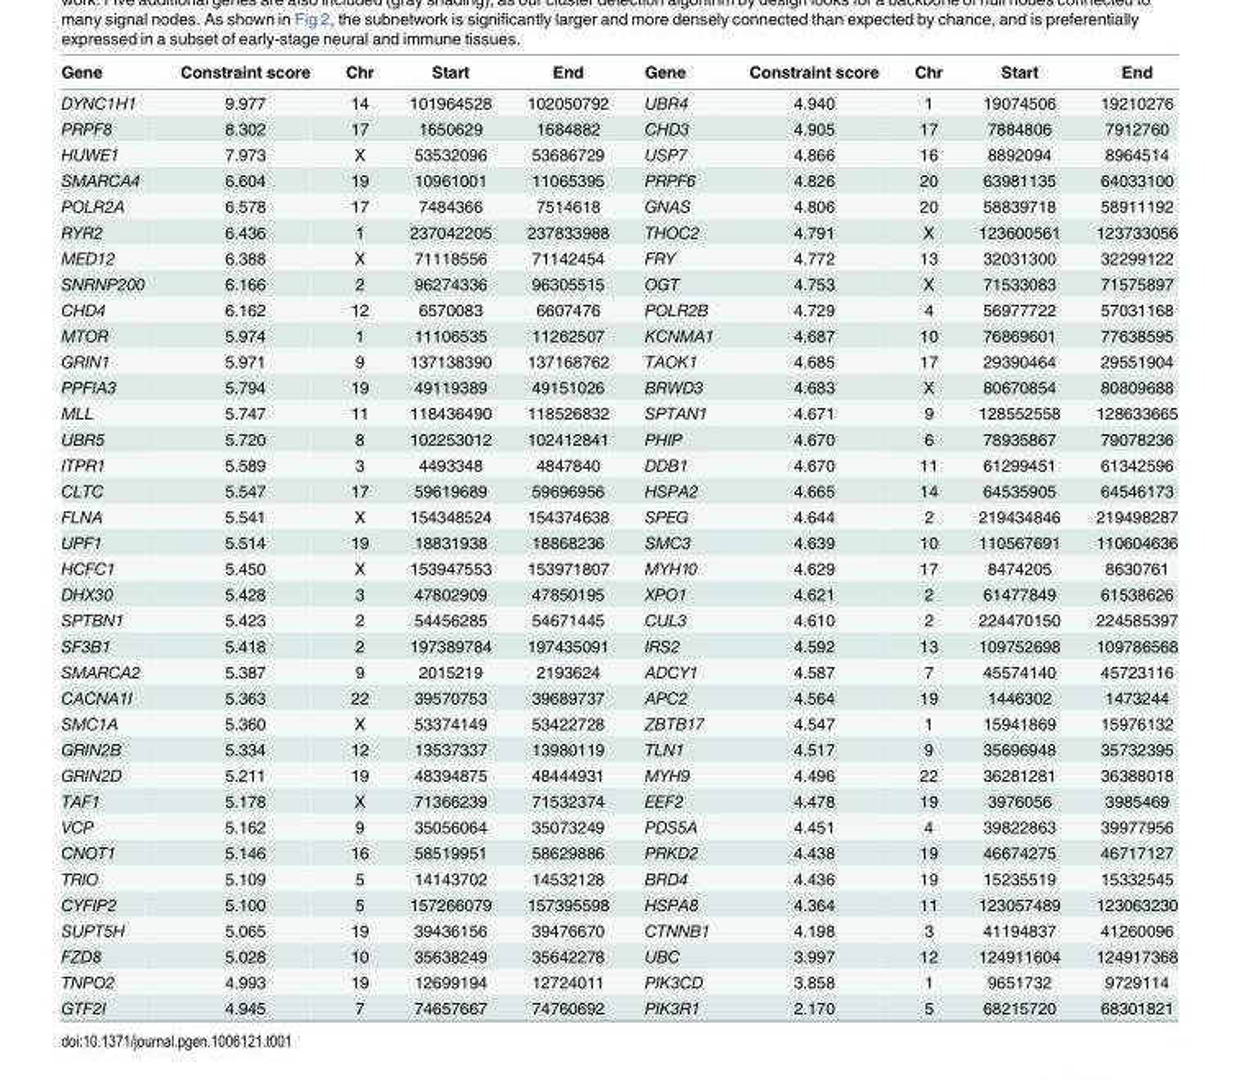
<table><thead><tr><td>Gene</td><td>Constraint score</td><td>Chr</td><td>Start</td><td>End</td><td>Gene</td><td>Constraint score</td><td>Chr</td><td>Start</td><td>End</td></tr></thead><tbody><tr><td>DYNC1H1</td><td>9.977</td><td>14</td><td>101964528</td><td>102050792</td><td>UBR4</td><td>4.940</td><td>1</td><td>19074506</td><td>19210276</td></tr><tr><td>PRPF8</td><td>8.302</td><td>17</td><td>1650629</td><td>1684882</td><td>CHD3</td><td>4.905</td><td>17</td><td>7884806</td><td>7912760</td></tr><tr><td>HUWE1</td><td>7.973</td><td>X</td><td>53532096</td><td>53686729</td><td>USP7</td><td>4.866</td><td>16</td><td>8892094</td><td>8964514</td></tr><tr><td>SMARCA4</td><td>6.604</td><td>19</td><td>10961001</td><td>11065395</td><td>PRPF6</td><td>4.826</td><td>20</td><td>63981135</td><td>64033100</td></tr><tr><td>POLR2A</td><td>6.578</td><td>17</td><td>7484366</td><td>7514618</td><td>GNAS</td><td>4.806</td><td>20</td><td>58839718</td><td>58911192</td></tr><tr><td>RYR2</td><td>6.436</td><td>1</td><td>237042205</td><td>237833988</td><td>THOC2</td><td>4.791</td><td>X</td><td>123600561</td><td>123733056</td></tr><tr><td>MED12</td><td>6.388</td><td>X</td><td>71118556</td><td>71142454</td><td>FRY</td><td>4.772</td><td>13</td><td>32031300</td><td>32299122</td></tr><tr><td>SNRNP200</td><td>6.166</td><td>2</td><td>96274336</td><td>96305515</td><td>OGT</td><td>4.753</td><td>X</td><td>71533083</td><td>71575897</td></tr><tr><td>CHD4</td><td>6.162</td><td>12</td><td>6570083</td><td>6607476</td><td>POLR2B</td><td>4.729</td><td>4</td><td>56977722</td><td>57031168</td></tr><tr><td>MTOR</td><td>5.974</td><td>1</td><td>11106535</td><td>11262507</td><td>KCNMA1</td><td>4.687</td><td>10</td><td>76869601</td><td>77638595</td></tr><tr><td>GRIN1</td><td>5.971</td><td>9</td><td>137138390</td><td>137168762</td><td>TAOK1</td><td>4.685</td><td>17</td><td>29390464</td><td>29551904</td></tr><tr><td>PPFIA3</td><td>5.794</td><td>19</td><td>49119389</td><td>49151026</td><td>BRWD3</td><td>4.683</td><td>X</td><td>80670854</td><td>80809688</td></tr><tr><td>MLL</td><td>5.747</td><td>11</td><td>118436490</td><td>118526832</td><td>SPTAN1</td><td>4.671</td><td>9</td><td>128552558</td><td>128633665</td></tr><tr><td>UBR5</td><td>5.720</td><td>8</td><td>102253012</td><td>102412841</td><td>PHIP</td><td>4.670</td><td>6</td><td>78935867</td><td>79078236</td></tr><tr><td>ITPR1</td><td>5.589</td><td>3</td><td>4493348</td><td>4847840</td><td>DDB1</td><td>4.670</td><td>11</td><td>61299451</td><td>61342596</td></tr><tr><td>CLTC</td><td>5.547</td><td>17</td><td>59619689</td><td>59696956</td><td>HSPA2</td><td>4.665</td><td>14</td><td>64535905</td><td>64546173</td></tr><tr><td>FLNA</td><td>5.541</td><td>X</td><td>154348524</td><td>154374638</td><td>SPEG</td><td>4.644</td><td>2</td><td>219434846</td><td>219498287</td></tr><tr><td>UPF1</td><td>5.514</td><td>19</td><td>18831938</td><td>18868236</td><td>SMC3</td><td>4.639</td><td>10</td><td>110567691</td><td>110604636</td></tr><tr><td>HCFC1</td><td>5.450</td><td>X</td><td>153947553</td><td>153971807</td><td>MYH10</td><td>4.629</td><td>17</td><td>8474205</td><td>8630761</td></tr><tr><td>DHX30</td><td>5.428</td><td>3</td><td>47802909</td><td>47850195</td><td>XPO1</td><td>4.621</td><td>2</td><td>61477849</td><td>61538626</td></tr><tr><td>SPTBN1</td><td>5.423</td><td>2</td><td>54456285</td><td>54671445</td><td>CUL3</td><td>4.610</td><td>2</td><td>224470150</td><td>224585397</td></tr><tr><td>SF3B1</td><td>5.418</td><td>2</td><td>197389784</td><td>197435091</td><td>IRS2</td><td>4.592</td><td>13</td><td>109752698</td><td>109786568</td></tr><tr><td>SMARCA2</td><td>5.387</td><td>9</td><td>2015219</td><td>2193624</td><td>ADCY1</td><td>4.587</td><td>7</td><td>45574140</td><td>45723116</td></tr><tr><td>CACNA1I</td><td>5.363</td><td>22</td><td>39570753</td><td>39689737</td><td>APC2</td><td>4.564</td><td>19</td><td>1446302</td><td>1473244</td></tr><tr><td>SMC1A</td><td>5.360</td><td>X</td><td>53374149</td><td>53422728</td><td>ZBTB17</td><td>4.547</td><td>1</td><td>15941869</td><td>15976132</td></tr><tr><td>GRIN2B</td><td>5.334</td><td>12</td><td>13537337</td><td>13980119</td><td>TLN1</td><td>4.517</td><td>9</td><td>35696948</td><td>35732395</td></tr><tr><td>GRIN2D</td><td>5.211</td><td>19</td><td>48394875</td><td>48444931</td><td>MYH9</td><td>4.496</td><td>22</td><td>36281281</td><td>36388018</td></tr><tr><td>TAF1</td><td>5.178</td><td>X</td><td>71366239</td><td>71532374</td><td>EEF2</td><td>4.478</td><td>19</td><td>3976056</td><td>3985469</td></tr><tr><td>VCP</td><td>5.162</td><td>9</td><td>35056064</td><td>35073249</td><td>PDS5A</td><td>4.451</td><td>4</td><td>39822863</td><td>39977956</td></tr><tr><td>CNOT1</td><td>5.146</td><td>16</td><td>58519951</td><td>58629886</td><td>PRKD2</td><td>4.438</td><td>19</td><td>46674275</td><td>46717127</td></tr><tr><td>TRIO</td><td>5.109</td><td>5</td><td>14143702</td><td>14532128</td><td>BRD4</td><td>4.436</td><td>19</td><td>15235519</td><td>15332545</td></tr><tr><td>CYFIP2</td><td>5.100</td><td>5</td><td>157266079</td><td>157395598</td><td>HSPA8</td><td>4.364</td><td>11</td><td>123057489</td><td>123063230</td></tr><tr><td>SUPT5H</td><td>5.065</td><td>19</td><td>39436156</td><td>39476670</td><td>CTNNB1</td><td>4.198</td><td>3</td><td>41194837</td><td>41260096</td></tr><tr><td>FZD8</td><td>5.028</td><td>10</td><td>35638249</td><td>35642278</td><td>UBC</td><td>3.997</td><td>12</td><td>124911604</td><td>124917368</td></tr><tr><td>TNPO2</td><td>4.993</td><td>19</td><td>12699194</td><td>12724011</td><td>PIK3CD</td><td>3.858</td><td>1</td><td>9651732</td><td>9729114</td></tr><tr><td>GTF2I</td><td>4.945</td><td>7</td><td>74657667</td><td>74760692</td><td>PIK3R1</td><td>2.170</td><td>5</td><td>68215720</td><td>68301821</td></tr></tbody></table>